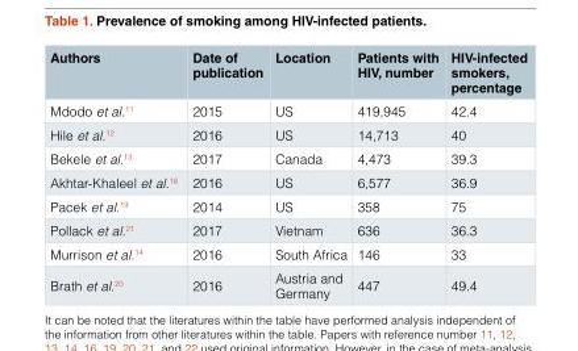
<table><thead><tr><td>Authors</td><td>Date of publication</td><td>Location</td><td>Patients with HIV, number</td><td>HIV-infected smokers, percentage</td></tr></thead><tbody><tr><td>Mdodo et al.<sup>11</sup></td><td>2015</td><td>US</td><td>419,945</td><td>42.4</td></tr><tr><td>Hile et al.<sup>12</sup></td><td>2016</td><td>US</td><td>14,713</td><td>40</td></tr><tr><td>Bekele et al.<sup>13</sup></td><td>2017</td><td>Canada</td><td>4,473</td><td>39.3</td></tr><tr><td>Akhtar-Khaleel et al.<sup>16</sup></td><td>2016</td><td>US</td><td>6,577</td><td>36.9</td></tr><tr><td>Pacek et al.<sup>19</sup></td><td>2014</td><td>US</td><td>358</td><td>75</td></tr><tr><td>Pollack et al.<sup>21</sup></td><td>2017</td><td>Vietnam</td><td>636</td><td>36.3</td></tr><tr><td>Murrison et al.<sup>14</sup></td><td>2016</td><td>South Africa</td><td>146</td><td>33</td></tr><tr><td>Brath et al.<sup>20</sup></td><td>2016</td><td>Austria and Germany</td><td>447</td><td>49.4</td></tr></tbody></table>